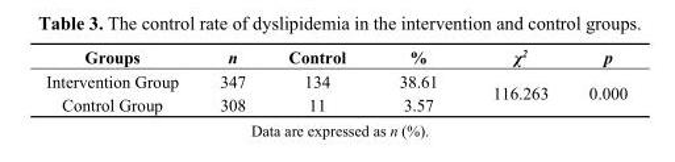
<table><thead><tr><td>Groups</td><td>n</td><td>Control</td><td>%</td><td>χ<sup>2</sup></td><td>p</td></tr></thead><tbody><tr><td>Intervention Group</td><td>347</td><td>134</td><td>38.61</td><td rowspan="2">116.263</td><td rowspan="2">0.000</td></tr><tr><td>Control Group</td><td>308</td><td>11</td><td>3.57</td></tr></tbody></table>